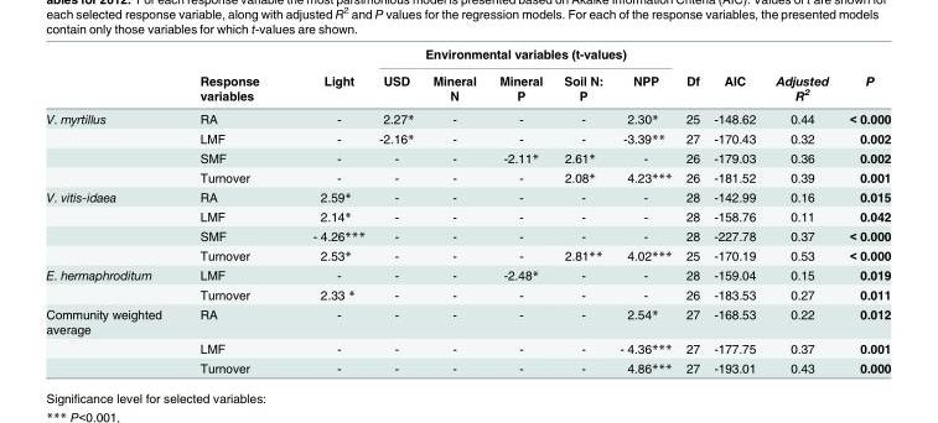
<table><thead><tr><td rowspan="2"></td><td rowspan="2">Response variables</td><td rowspan="2">Light</td><td colspan="5">Environmental variables (t-values)</td><td rowspan="2">Df</td><td rowspan="2">AIC</td><td rowspan="2">Adjusted R<sup>2</sup></td><td rowspan="2">P</td></tr><tr><td>USD</td><td>Mineral N</td><td>Mineral P</td><td>Soil N: P</td><td>NPP</td></tr></thead><tbody><tr><td rowspan="4">V. myrtillus</td><td>RA</td><td>-</td><td>2.27*</td><td>-</td><td>-</td><td>-</td><td>2.30*</td><td>25</td><td>-148.62</td><td>0.44</td><td>&lt; 0.000</td></tr><tr><td>LMF</td><td>-</td><td>-2.16*</td><td>-</td><td>-</td><td>-</td><td>-3.39**</td><td>27</td><td>-170.43</td><td>0.32</td><td>0.002</td></tr><tr><td>SMF</td><td>-</td><td>-</td><td>-</td><td>-2.11*</td><td>2.61*</td><td>-</td><td>26</td><td>-179.03</td><td>0.36</td><td>0.002</td></tr><tr><td>Turnover</td><td>-</td><td>-</td><td>-</td><td>-</td><td>2.08*</td><td>4.23***</td><td>26</td><td>-181.52</td><td>0.39</td><td>0.001</td></tr><tr><td rowspan="4">V. vitis-idaea</td><td>RA</td><td>2.59*</td><td>-</td><td>-</td><td>-</td><td>-</td><td>-</td><td>28</td><td>-142.99</td><td>0.16</td><td>0.015</td></tr><tr><td>LMF</td><td>2.14*</td><td>-</td><td>-</td><td>-</td><td>-</td><td>-</td><td>28</td><td>-158.76</td><td>0.11</td><td>0.042</td></tr><tr><td>SMF</td><td>- 4.26***</td><td>-</td><td>-</td><td>-</td><td>-</td><td>-</td><td>28</td><td>-227.78</td><td>0.37</td><td>&lt; 0.000</td></tr><tr><td>Turnover</td><td>2.53*</td><td>-</td><td>-</td><td>-</td><td>2.81**</td><td>4.02***</td><td>25</td><td>-170.19</td><td>0.53</td><td>&lt; 0.000</td></tr><tr><td rowspan="2">E. hermaphroditum</td><td>LMF</td><td>-</td><td>-</td><td>-</td><td>-2.48*</td><td>-</td><td>-</td><td>28</td><td>-159.04</td><td>0.15</td><td>0.019</td></tr><tr><td>Turnover</td><td>2.33 *</td><td>-</td><td>-</td><td>-</td><td>-</td><td>-</td><td>26</td><td>-183.53</td><td>0.27</td><td>0.011</td></tr><tr><td rowspan="3">Community weighted average</td><td>RA</td><td>-</td><td>-</td><td>-</td><td>-</td><td>-</td><td>2.54*</td><td>27</td><td>-168.53</td><td>0.22</td><td>0.012</td></tr><tr><td>LMF</td><td>-</td><td>-</td><td>-</td><td>-</td><td>-</td><td>- 4.36***</td><td>27</td><td>-177.75</td><td>0.37</td><td>0.001</td></tr><tr><td>Turnover</td><td>-</td><td>-</td><td>-</td><td>-</td><td>-</td><td>4.86***</td><td>27</td><td>-193.01</td><td>0.43</td><td>0.000</td></tr></tbody></table>